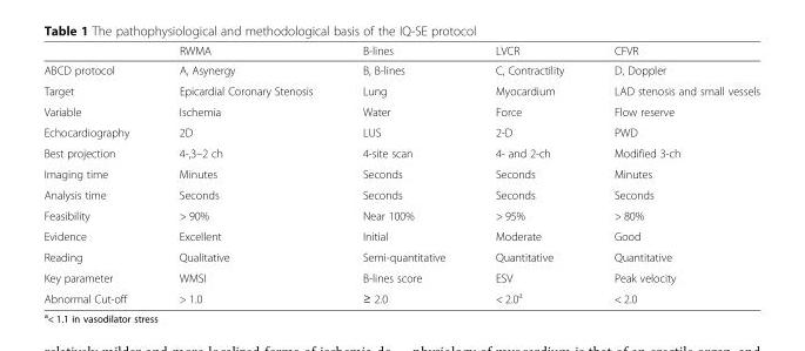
<table><thead><tr><td></td><td>RWMA</td><td>B-lines</td><td>LVCR</td><td>CFVR</td></tr></thead><tbody><tr><td>ABCD protocol</td><td>A, Asynergy</td><td>B, B-lines</td><td>C, Contractility</td><td>D, Doppler</td></tr><tr><td>Target</td><td>Epicardial Coronary Stenosis</td><td>Lung</td><td>Myocardium</td><td>LAD stenosis and small vessels</td></tr><tr><td>Variable</td><td>Ischemia</td><td>Water</td><td>Force</td><td>Flow reserve</td></tr><tr><td>Echocardiography</td><td>2D</td><td>LUS</td><td>2-D</td><td>PWD</td></tr><tr><td>Best projection</td><td>4-,3–2 ch</td><td>4-site scan</td><td>4- and 2-ch</td><td>Modified 3-ch</td></tr><tr><td>Imaging time</td><td>Minutes</td><td>Seconds</td><td>Seconds</td><td>Minutes</td></tr><tr><td>Analysis time</td><td>Seconds</td><td>Seconds</td><td>Seconds</td><td>Seconds</td></tr><tr><td>Feasibility</td><td>&gt; 90%</td><td>Near 100%</td><td>&gt; 95%</td><td>&gt; 80%</td></tr><tr><td>Evidence</td><td>Excellent</td><td>Initial</td><td>Moderate</td><td>Good</td></tr><tr><td>Reading</td><td>Qualitative</td><td>Semi-quantitative</td><td>Quantitative</td><td>Quantitative</td></tr><tr><td>Key parameter</td><td>WMSI</td><td>B-lines score</td><td>ESV</td><td>Peak velocity</td></tr><tr><td>Abnormal Cut-off</td><td>&gt; 1.0</td><td>≥ 2.0</td><td>&lt; 2.0<sup>a</sup></td><td>&lt; 2.0</td></tr></tbody></table>